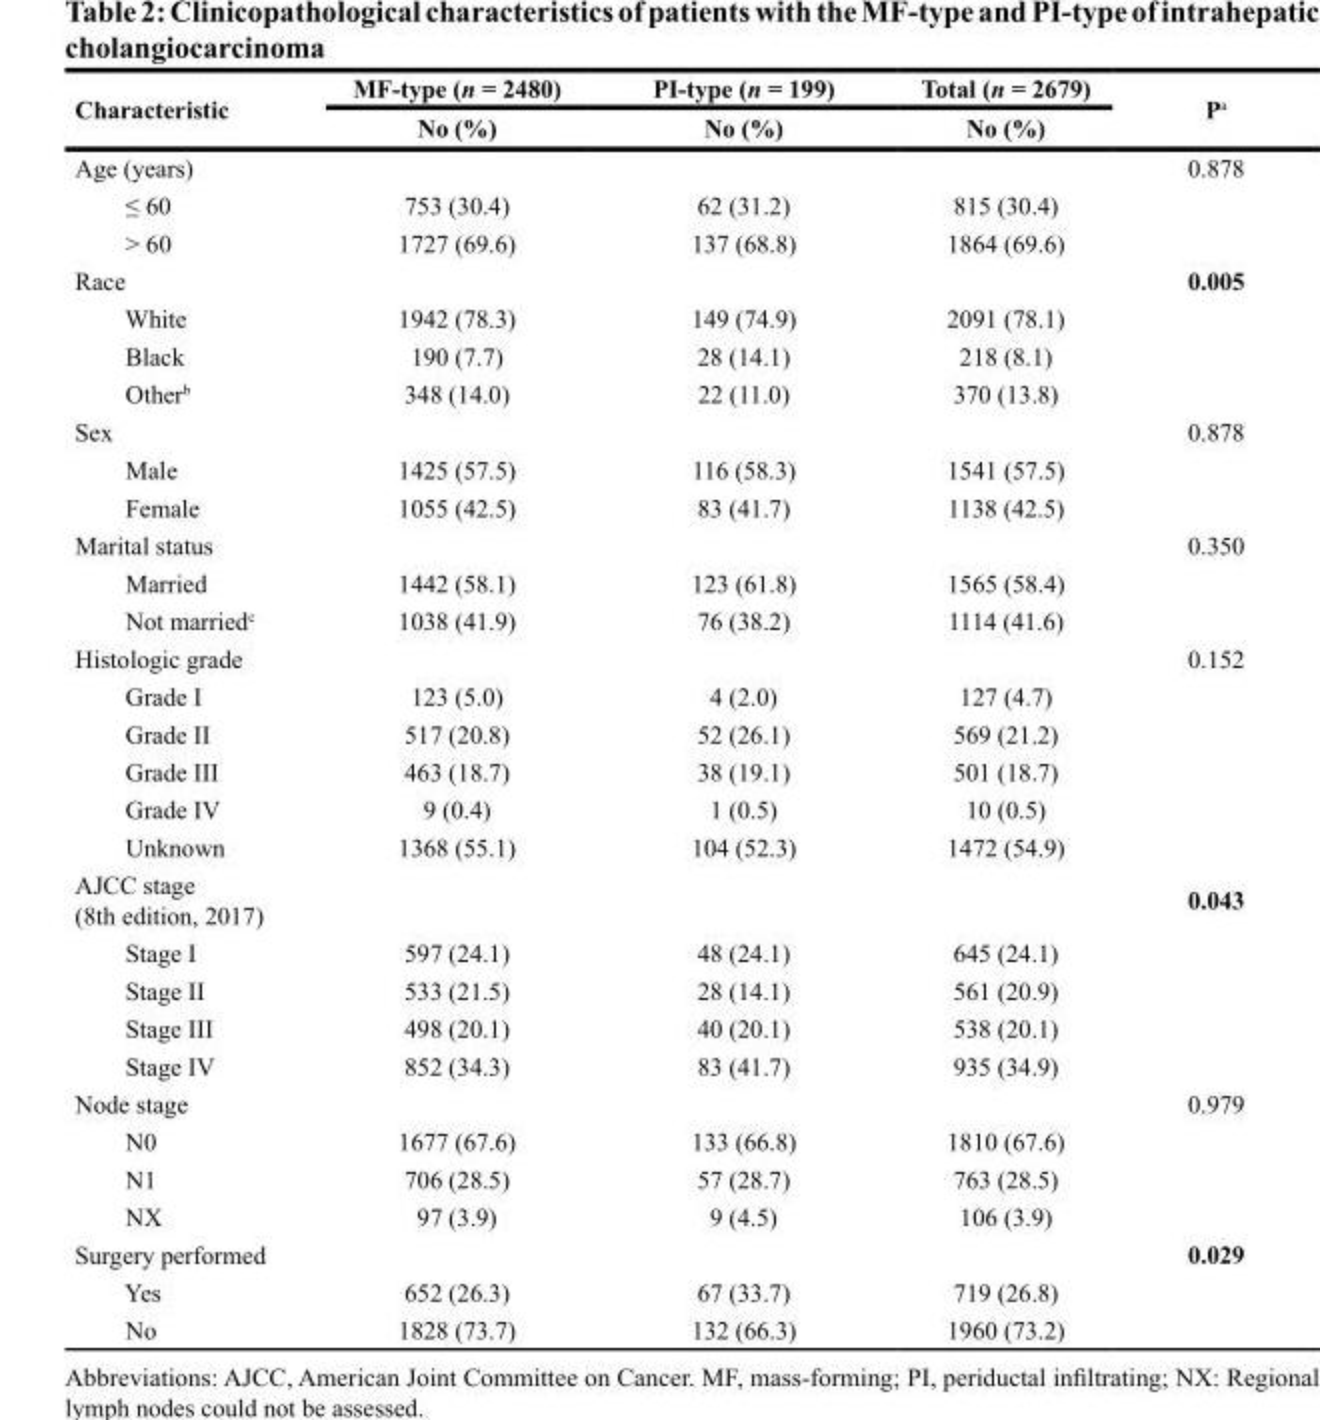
<table><thead><tr><td rowspan="2">Characteristic</td><td rowspan="2">MF-type (n = 2480) No (%)</td><td rowspan="2">PI-type (n = 199) No (%)</td><td rowspan="2">Total (n = 2679) No (%)</td><td rowspan="2">P<sup>a</sup></td></tr><tr></tr></thead><tbody><tr><td>Age (years)</td><td></td><td></td><td></td><td>0.878</td></tr><tr><td>≤ 60</td><td>753 (30.4)</td><td>62 (31.2)</td><td>815 (30.4)</td><td></td></tr><tr><td>&gt; 60</td><td>1727 (69.6)</td><td>137 (68.8)</td><td>1864 (69.6)</td><td></td></tr><tr><td>Race</td><td></td><td></td><td></td><td>0.005</td></tr><tr><td>White</td><td>1942 (78.3)</td><td>149 (74.9)</td><td>2091 (78.1)</td><td></td></tr><tr><td>Black</td><td>190 (7.7)</td><td>28 (14.1)</td><td>218 (8.1)</td><td></td></tr><tr><td>Other<sup>b</sup></td><td>348 (14.0)</td><td>22 (11.0)</td><td>370 (13.8)</td><td></td></tr><tr><td>Sex</td><td></td><td></td><td></td><td>0.878</td></tr><tr><td>Male</td><td>1425 (57.5)</td><td>116 (58.3)</td><td>1541 (57.5)</td><td></td></tr><tr><td>Female</td><td>1055 (42.5)</td><td>83 (41.7)</td><td>1138 (42.5)</td><td></td></tr><tr><td>Marital status</td><td></td><td></td><td></td><td>0.350</td></tr><tr><td>Married</td><td>1442 (58.1)</td><td>123 (61.8)</td><td>1565 (58.4)</td><td></td></tr><tr><td>Not married<sup>c</sup></td><td>1038 (41.9)</td><td>76 (38.2)</td><td>1114 (41.6)</td><td></td></tr><tr><td>Histologic grade</td><td></td><td></td><td></td><td>0.152</td></tr><tr><td>Grade I</td><td>123 (5.0)</td><td>4 (2.0)</td><td>127 (4.7)</td><td></td></tr><tr><td>Grade II</td><td>517 (20.8)</td><td>52 (26.1)</td><td>569 (21.2)</td><td></td></tr><tr><td>Grade III</td><td>463 (18.7)</td><td>38 (19.1)</td><td>501 (18.7)</td><td></td></tr><tr><td>Grade IV</td><td>9 (0.4)</td><td>1 (0.5)</td><td>10 (0.5)</td><td></td></tr><tr><td>Unknown</td><td>1368 (55.1)</td><td>104 (52.3)</td><td>1472 (54.9)</td><td></td></tr><tr><td>AJCC stage (8th edition, 2017)</td><td></td><td></td><td></td><td>0.043</td></tr><tr><td>Stage I</td><td>597 (24.1)</td><td>48 (24.1)</td><td>645 (24.1)</td><td></td></tr><tr><td>Stage II</td><td>533 (21.5)</td><td>28 (14.1)</td><td>561 (20.9)</td><td></td></tr><tr><td>Stage III</td><td>498 (20.1)</td><td>40 (20.1)</td><td>538 (20.1)</td><td></td></tr><tr><td>Stage IV</td><td>852 (34.3)</td><td>83 (41.7)</td><td>935 (34.9)</td><td></td></tr><tr><td>Node stage</td><td></td><td></td><td></td><td>0.979</td></tr><tr><td>N0</td><td>1677 (67.6)</td><td>133 (66.8)</td><td>1810 (67.6)</td><td></td></tr><tr><td>N1</td><td>706 (28.5)</td><td>57 (28.7)</td><td>763 (28.5)</td><td></td></tr><tr><td>NX</td><td>97 (3.9)</td><td>9 (4.5)</td><td>106 (3.9)</td><td></td></tr><tr><td>Surgery performed</td><td></td><td></td><td></td><td>0.029</td></tr><tr><td>Yes</td><td>652 (26.3)</td><td>67 (33.7)</td><td>719 (26.8)</td><td></td></tr><tr><td>No</td><td>1828 (73.7)</td><td>132 (66.3)</td><td>1960 (73.2)</td><td></td></tr></tbody></table>